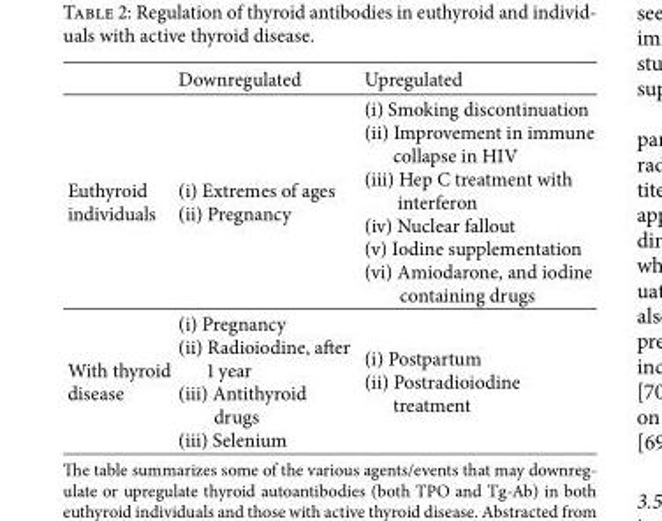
<table><thead><tr><td></td><td>Downregulated</td><td>Upregulated</td></tr></thead><tbody><tr><td>Euthyroid individuals</td><td>(i) Extremes of ages (ii) Pregnancy</td><td>(i) Smoking discontinuation (ii) Improvement in immune collapse in HIV (iii) Hep C treatment with interferon (iv) Nuclear fallout (v) Iodine supplementation (vi) Amiodarone, and iodine containing drugs</td></tr><tr><td>With thyroid disease</td><td>(i) Pregnancy (ii) Radioiodine, after 1 year (iii) Antithyroid drugs (iii) Selenium</td><td>(i) Postpartum (ii) Postradioiodine treatment</td></tr></tbody></table>